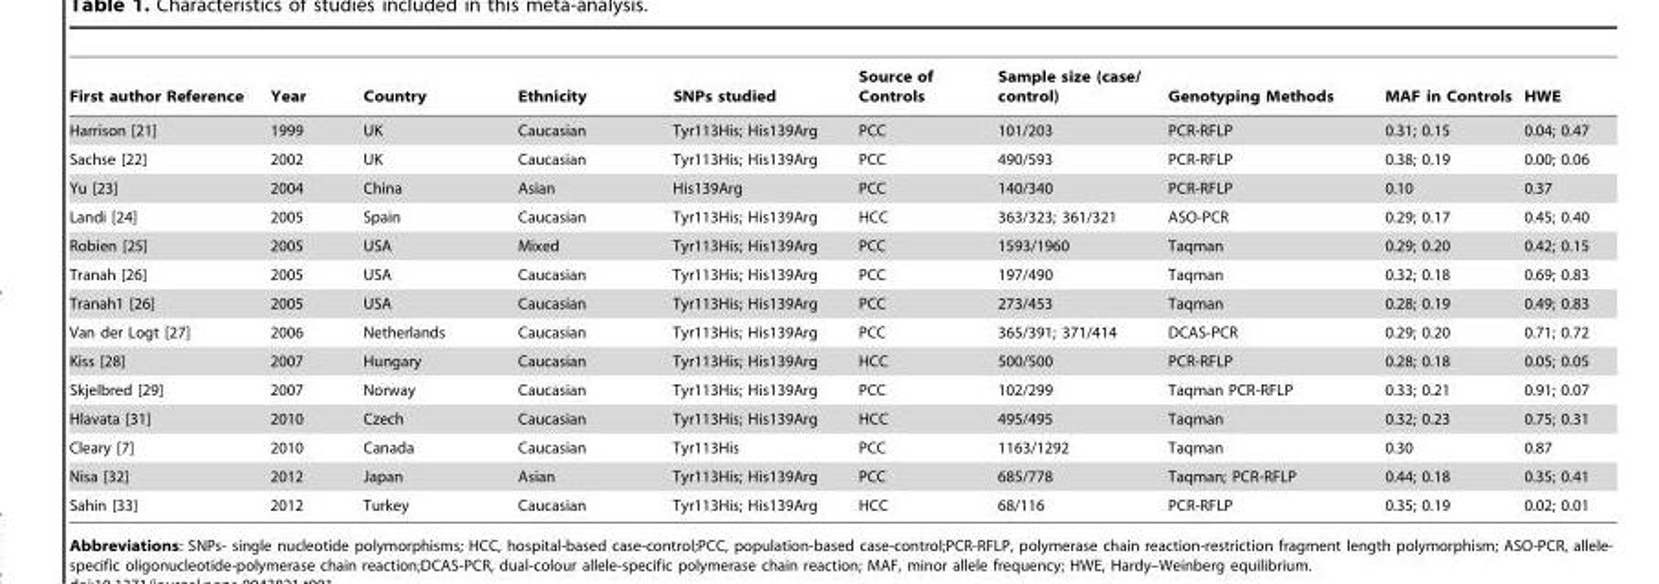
<table><thead><tr><td>First author Reference</td><td>Year</td><td>Country</td><td>Ethnicity</td><td>SNPs studied</td><td>Source of Controls</td><td>Sample size (case/ control)</td><td>Genotyping Methods</td><td>MAF in Controls</td><td>HWE</td></tr></thead><tbody><tr><td>Harrison [21]</td><td>1999</td><td>UK</td><td>Caucasian</td><td>Tyr113His; His139Arg</td><td>PCC</td><td>101/203</td><td>PCR-RFLP</td><td>0.31; 0.15</td><td>0.04; 0.47</td></tr><tr><td>Sachse [22]</td><td>2002</td><td>UK</td><td>Caucasian</td><td>Tyr113His; His139Arg</td><td>PCC</td><td>490/593</td><td>PCR-RFLP</td><td>0.38; 0.19</td><td>0.00; 0.06</td></tr><tr><td>Yu [23]</td><td>2004</td><td>China</td><td>Asian</td><td>His139Arg</td><td>PCC</td><td>140/340</td><td>PCR-RFLP</td><td>0.10</td><td>0.37</td></tr><tr><td>Landi [24]</td><td>2005</td><td>Spain</td><td>Caucasian</td><td>Tyr113His; His139Arg</td><td>HCC</td><td>363/323; 361/321</td><td>ASO-PCR</td><td>0.29; 0.17</td><td>0.45; 0.40</td></tr><tr><td>Robien [25]</td><td>2005</td><td>USA</td><td>Mixed</td><td>Tyr113His; His139Arg</td><td>PCC</td><td>1593/1960</td><td>Taqman</td><td>0.29; 0.20</td><td>0.42; 0.15</td></tr><tr><td>Tranah [26]</td><td>2005</td><td>USA</td><td>Caucasian</td><td>Tyr113His; His139Arg</td><td>PCC</td><td>197/490</td><td>Taqman</td><td>0.32; 0.18</td><td>0.69; 0.83</td></tr><tr><td>Tranah1 [26]</td><td>2005</td><td>USA</td><td>Caucasian</td><td>Tyr113His; His139Arg</td><td>PCC</td><td>273/453</td><td>Taqman</td><td>0.28; 0.19</td><td>0.49; 0.83</td></tr><tr><td>Van der Logt [27]</td><td>2006</td><td>Netherlands</td><td>Caucasian</td><td>Tyr113His; His139Arg</td><td>PCC</td><td>365/391; 371/414</td><td>DCAS-PCR</td><td>0.29; 0.20</td><td>0.71; 0.72</td></tr><tr><td>Kiss [28]</td><td>2007</td><td>Hungary</td><td>Caucasian</td><td>Tyr113His; His139Arg</td><td>HCC</td><td>500/500</td><td>PCR-RFLP</td><td>0.28; 0.18</td><td>0.05; 0.05</td></tr><tr><td>Skjelbred [29]</td><td>2007</td><td>Norway</td><td>Caucasian</td><td>Tyr113His; His139Arg</td><td>PCC</td><td>102/299</td><td>Taqman PCR-RFLP</td><td>0.33; 0.21</td><td>0.91; 0.07</td></tr><tr><td>Hlavata [31]</td><td>2010</td><td>Czech</td><td>Caucasian</td><td>Tyr113His; His139Arg</td><td>HCC</td><td>495/495</td><td>Taqman</td><td>0.32; 0.23</td><td>0.75; 0.31</td></tr><tr><td>Cleary [7]</td><td>2010</td><td>Canada</td><td>Caucasian</td><td>Tyr113His</td><td>PCC</td><td>1163/1292</td><td>Taqman</td><td>0.30</td><td>0.87</td></tr><tr><td>Nisa [32]</td><td>2012</td><td>Japan</td><td>Asian</td><td>Tyr113His; His139Arg</td><td>PCC</td><td>685/778</td><td>Taqman; PCR-RFLP</td><td>0.44; 0.18</td><td>0.35; 0.41</td></tr><tr><td>Sahin [33]</td><td>2012</td><td>Turkey</td><td>Caucasian</td><td>Tyr113His; His139Arg</td><td>HCC</td><td>68/116</td><td>PCR-RFLP</td><td>0.35; 0.19</td><td>0.02; 0.01</td></tr></tbody></table>